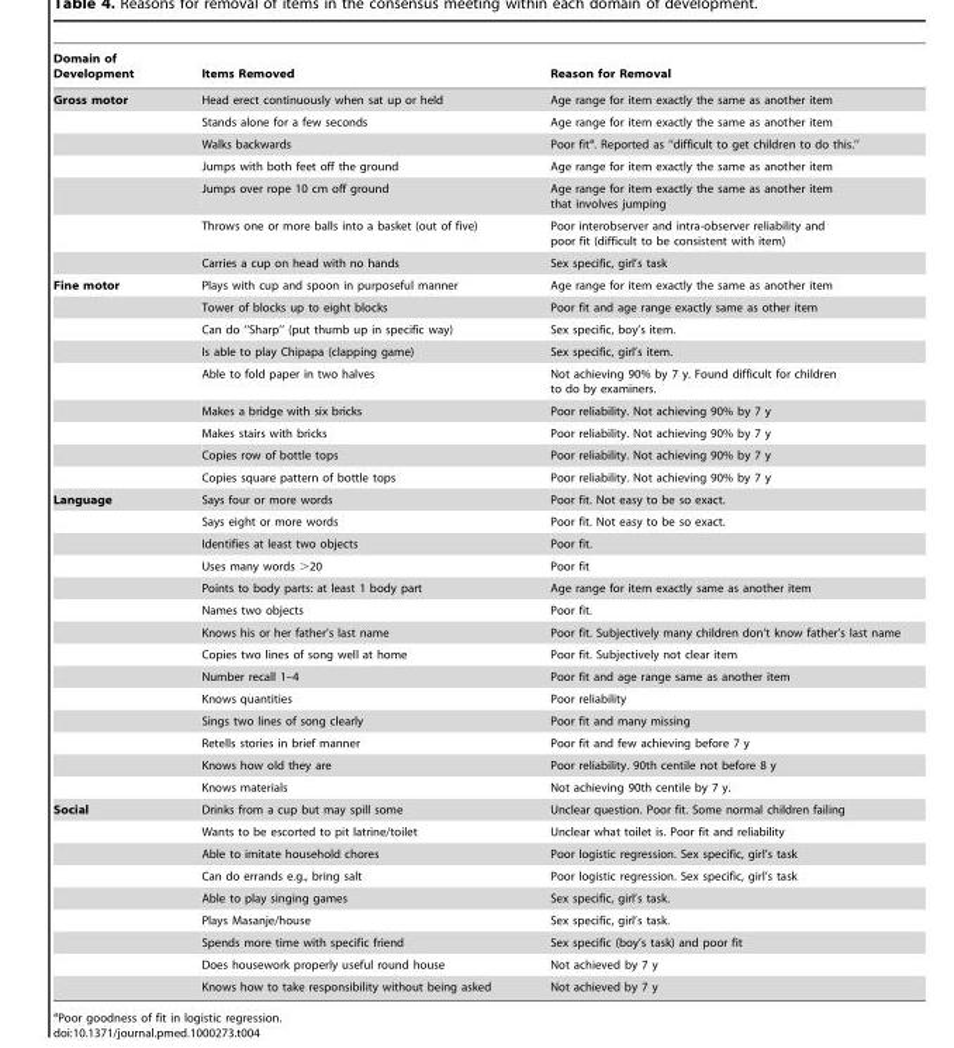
<table><thead><tr><td>Domain of Development</td><td>Items Removed</td><td>Reason for Removal</td></tr></thead><tbody><tr><td rowspan="7">Gross motor</td><td>Head erect continuously when sat up or held</td><td>Age range for item exactly the same as another item</td></tr><tr><td>Stands alone for a few seconds</td><td>Age range for item exactly the same as another item</td></tr><tr><td>Walks backwards</td><td>Poor fita. Reported as ‘‘difficult to get children to do this.’’</td></tr><tr><td>Jumps with both feet off the ground</td><td>Age range for item exactly the same as another item</td></tr><tr><td>Jumps over rope 10 cm off ground</td><td>Age range for item exactly the same as another item that involves jumping</td></tr><tr><td>Throws one or more balls into a basket (out of five)</td><td>Poor interobserver and intra-observer reliability and poor fit (difficult to be consistent with item)</td></tr><tr><td>Carries a cup on head with no hands</td><td>Sex specific, girl’s task</td></tr><tr><td rowspan="9">Fine motor</td><td>Plays with cup and spoon in purposeful manner</td><td>Age range for item exactly the same as another item</td></tr><tr><td>Tower of blocks up to eight blocks</td><td>Poor fit and age range exactly same as other item</td></tr><tr><td>Can do ‘‘Sharp’’ (put thumb up in specific way)</td><td>Sex specific, boy’s item.</td></tr><tr><td>Is able to play Chipapa (clapping game)</td><td>Sex specific, girl’s item.</td></tr><tr><td>Able to fold paper in two halves</td><td>Not achieving 90% by 7 y. Found difficult for children to do by examiners.</td></tr><tr><td>Makes a bridge with six bricks</td><td>Poor reliability. Not achieving 90% by 7 y</td></tr><tr><td>Makes stairs with bricks</td><td>Poor reliability. Not achieving 90% by 7 y</td></tr><tr><td>Copies row of bottle tops</td><td>Poor reliability. Not achieving 90% by 7 y</td></tr><tr><td>Copies square pattern of bottle tops</td><td>Poor reliability. Not achieving 90% by 7 y</td></tr><tr><td rowspan="14">Language</td><td>Says four or more words</td><td>Poor fit. Not easy to be so exact.</td></tr><tr><td>Says eight or more words</td><td>Poor fit. Not easy to be so exact.</td></tr><tr><td>Identifies at least two objects</td><td>Poor fit.</td></tr><tr><td>Uses many words &gt;20</td><td>Poor fit</td></tr><tr><td>Points to body parts: at least 1 body part</td><td>Age range for item exactly same as another item</td></tr><tr><td>Names two objects</td><td>Poor fit.</td></tr><tr><td>Knows his or her father’s last name</td><td>Poor fit. Subjectively many children don’t know father’s last name</td></tr><tr><td>Copies two lines of song well at home</td><td>Poor fit. Subjectively not clear item</td></tr><tr><td>Number recall 1–4</td><td>Poor fit and age range same as another item</td></tr><tr><td>Knows quantities</td><td>Poor reliability</td></tr><tr><td>Sings two lines of song clearly</td><td>Poor fit and many missing</td></tr><tr><td>Retells stories in brief manner</td><td>Poor fit and few achieving before 7 y</td></tr><tr><td>Knows how old they are</td><td>Poor reliability. 90th centile not before 8 y</td></tr><tr><td>Knows materials</td><td>Not achieving 90th centile by 7 y.</td></tr><tr><td rowspan="9">Social</td><td>Drinks from a cup but may spill some</td><td>Unclear question. Poor fit. Some normal children failing</td></tr><tr><td>Wants to be escorted to pit latrine/toilet</td><td>Unclear what toilet is. Poor fit and reliability</td></tr><tr><td>Able to imitate household chores</td><td>Poor logistic regression. Sex specific, girl’s task</td></tr><tr><td>Can do errands e.g., bring salt</td><td>Poor logistic regression. Sex specific, girl’s task</td></tr><tr><td>Able to play singing games</td><td>Sex specific, girl’s task.</td></tr><tr><td>Plays Masanje/house</td><td>Sex specific, girl’s task.</td></tr><tr><td>Spends more time with specific friend</td><td>Sex specific (boy’s task) and poor fit</td></tr><tr><td>Does housework properly useful round house</td><td>Not achieved by 7 y</td></tr><tr><td>Knows how to take responsibility without being asked</td><td>Not achieved by 7 y</td></tr></tbody></table>